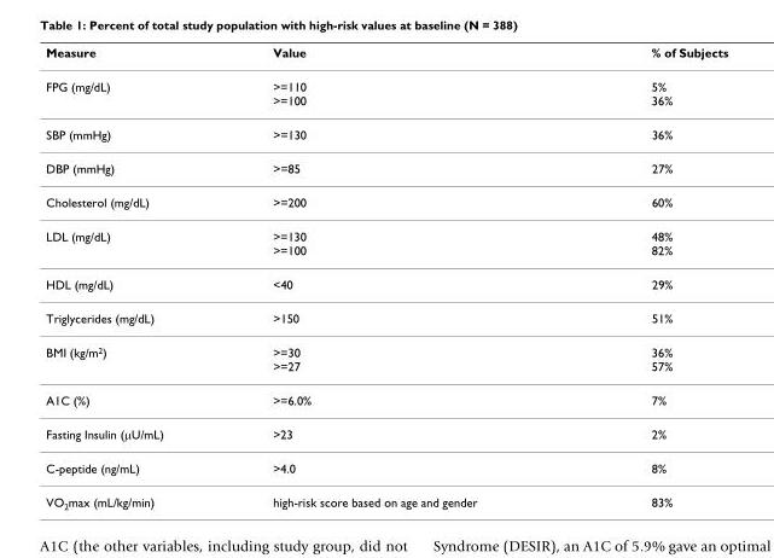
<table><thead><tr><td>Measure</td><td>Value</td><td>% of Subjects</td></tr></thead><tbody><tr><td>FPG (mg/dL)</td><td>&gt;=110 &gt;=100</td><td>5% 36%</td></tr><tr><td>SBP (mmHg)</td><td>&gt;=130</td><td>36%</td></tr><tr><td>DBP (mmHg)</td><td>&gt;=85</td><td>27%</td></tr><tr><td>Cholesterol (mg/dL)</td><td>&gt;=200</td><td>60%</td></tr><tr><td>LDL (mg/dL)</td><td>&gt;=130 &gt;=100</td><td>48% 82%</td></tr><tr><td>HDL (mg/dL)</td><td>&lt;40</td><td>29%</td></tr><tr><td>Triglycerides (mg/dL)</td><td>&gt;150</td><td>51%</td></tr><tr><td>BMI (kg/m<sup>2</sup>)</td><td>&gt;=30 &gt;=27</td><td>36% 57%</td></tr><tr><td>A1C (%)</td><td>&gt;=6.0%</td><td>7%</td></tr><tr><td>Fasting Insulin (μU/mL)</td><td>&gt;23</td><td>2%</td></tr><tr><td>C-peptide (ng/mL)</td><td>&gt;4.0</td><td>8%</td></tr><tr><td>VO<sub>2</sub>max (mL/kg/min)</td><td>high-risk score based on age and gender</td><td>83%</td></tr></tbody></table>